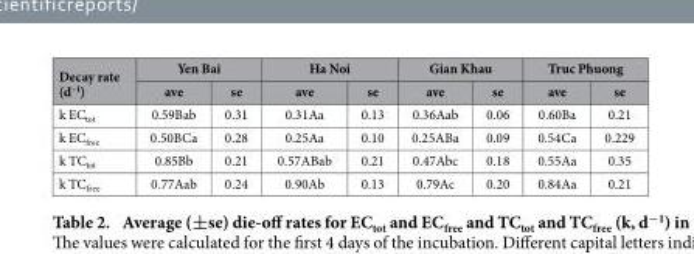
<table><thead><tr><td rowspan="2">Decay rate (d<sup>–1</sup>)</td><td colspan="2">Yen Bai</td><td colspan="2">Ha Noi</td><td colspan="2">Gian Khau</td><td colspan="2">Truc Phuong</td></tr><tr><td>ave</td><td>se</td><td>ave</td><td>se</td><td>ave</td><td>se</td><td>ave</td><td>se</td></tr></thead><tbody><tr><td>k EC<sub>tot</sub></td><td>0.59Bab</td><td>0.31</td><td>0.31Aa</td><td>0.13</td><td>0.36Aab</td><td>0.06</td><td>0.60Ba</td><td>0.21</td></tr><tr><td>k EC<sub>free</sub></td><td>0.50BCa</td><td>0.28</td><td>0.25Aa</td><td>0.10</td><td>0.25ABa</td><td>0.09</td><td>0.54Ca</td><td>0.229</td></tr><tr><td>k TC<sub>tot</sub></td><td>0.85Bb</td><td>0.21</td><td>0.57ABab</td><td>0.21</td><td>0.47Abc</td><td>0.18</td><td>0.55Aa</td><td>0.35</td></tr><tr><td>k TC<sub>free</sub></td><td>0.77Aab</td><td>0.24</td><td>0.90Ab</td><td>0.13</td><td>0.79Ac</td><td>0.20</td><td>0.84Aa</td><td>0.21</td></tr></tbody></table>